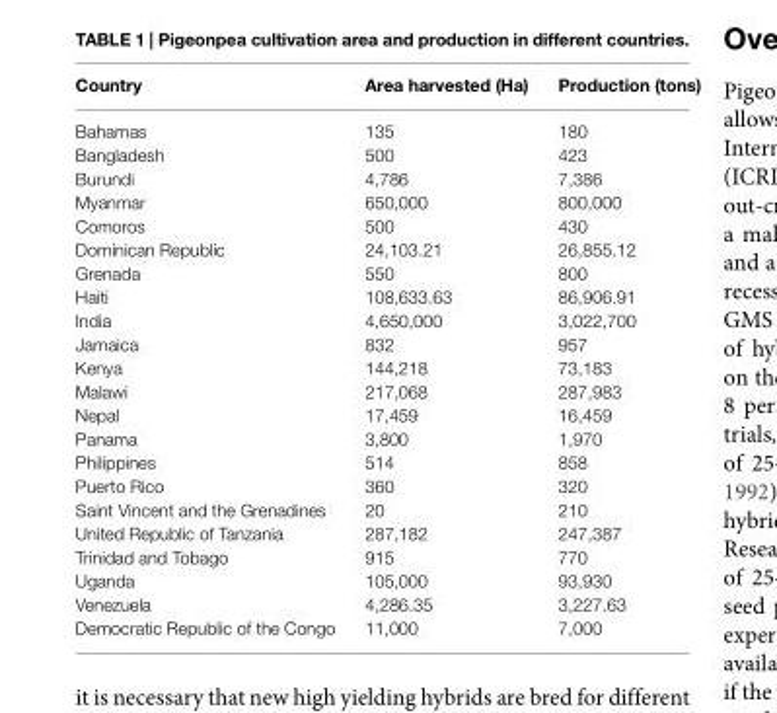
<table><thead><tr><td>Country</td><td>Area harvested (Ha)</td><td>Production (tons)</td></tr></thead><tbody><tr><td>Bahamas</td><td>135</td><td>180</td></tr><tr><td>Bangladesh</td><td>500</td><td>423</td></tr><tr><td>Burundi</td><td>4,786</td><td>7,386</td></tr><tr><td>Myanmar</td><td>650,000</td><td>800,000</td></tr><tr><td>Comoros</td><td>500</td><td>430</td></tr><tr><td>Dominican Republic</td><td>24,103.21</td><td>26,855.12</td></tr><tr><td>Grenada</td><td>550</td><td>800</td></tr><tr><td>Haiti</td><td>108,633.63</td><td>86,906.91</td></tr><tr><td>India</td><td>4,650,000</td><td>3,022,700</td></tr><tr><td>Jamaica</td><td>832</td><td>957</td></tr><tr><td>Kenya</td><td>144,218</td><td>73,183</td></tr><tr><td>Malawi</td><td>217,068</td><td>287,983</td></tr><tr><td>Nepal</td><td>17,459</td><td>16,459</td></tr><tr><td>Panama</td><td>3,800</td><td>1,970</td></tr><tr><td>Philippines</td><td>514</td><td>858</td></tr><tr><td>Puerto Rico</td><td>360</td><td>320</td></tr><tr><td>Saint Vincent and the Grenadines</td><td>20</td><td>210</td></tr><tr><td>United Republic of Tanzania</td><td>287,182</td><td>247,387</td></tr><tr><td>Trinidad and Tobago</td><td>915</td><td>770</td></tr><tr><td>Uganda</td><td>105,000</td><td>93,930</td></tr><tr><td>Venezuela</td><td>4,286.35</td><td>3,227.63</td></tr><tr><td>Democratic Republic of the Congo</td><td>11,000</td><td>7,000</td></tr></tbody></table>